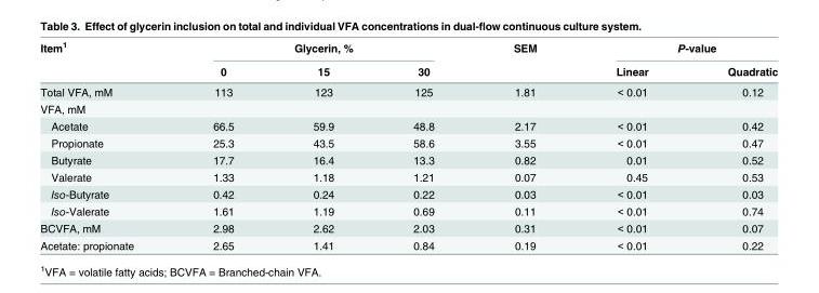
<table><thead><tr><td rowspan="2">Item<sup>1</sup></td><td colspan="3">Glycerin, %</td><td rowspan="2">SEM</td><td colspan="2">P-value</td></tr><tr><td>0</td><td>15</td><td>30</td><td>Linear</td><td>Quadratic</td></tr></thead><tbody><tr><td>Total VFA, mM</td><td>113</td><td>123</td><td>125</td><td>1.81</td><td>&lt; 0.01</td><td>0.12</td></tr><tr><td colspan="7">VFA, mM</td></tr><tr><td>Acetate</td><td>66.5</td><td>59.9</td><td>48.8</td><td>2.17</td><td>&lt; 0.01</td><td>0.42</td></tr><tr><td>Propionate</td><td>25.3</td><td>43.5</td><td>58.6</td><td>3.55</td><td>&lt; 0.01</td><td>0.47</td></tr><tr><td>Butyrate</td><td>17.7</td><td>16.4</td><td>13.3</td><td>0.82</td><td>0.01</td><td>0.52</td></tr><tr><td>Valerate</td><td>1.33</td><td>1.18</td><td>1.21</td><td>0.07</td><td>0.45</td><td>0.53</td></tr><tr><td>Iso-Butyrate</td><td>0.42</td><td>0.24</td><td>0.22</td><td>0.03</td><td>&lt; 0.01</td><td>0.03</td></tr><tr><td>Iso-Valerate</td><td>1.61</td><td>1.19</td><td>0.69</td><td>0.11</td><td>&lt; 0.01</td><td>0.74</td></tr><tr><td>BCVFA, mM</td><td>2.98</td><td>2.62</td><td>2.03</td><td>0.31</td><td>&lt; 0.01</td><td>0.07</td></tr><tr><td>Acetate: propionate</td><td>2.65</td><td>1.41</td><td>0.84</td><td>0.19</td><td>&lt; 0.01</td><td>0.22</td></tr></tbody></table>